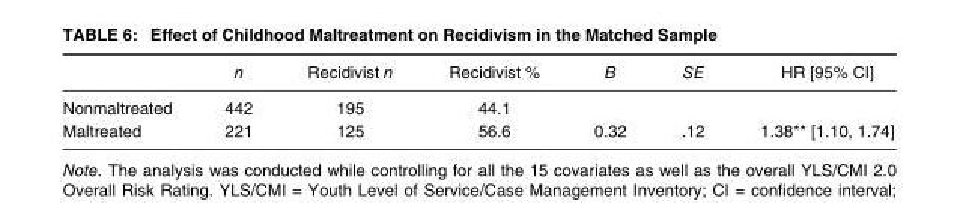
<table><thead><tr><td></td><td>n</td><td>Recidivist n</td><td>Recidivist %</td><td>B</td><td>SE</td><td>HR [95% CI]</td></tr></thead><tbody><tr><td>Nonmaltreated</td><td>442</td><td>195</td><td>44.1</td><td></td><td></td><td></td></tr><tr><td>Maltreated</td><td>221</td><td>125</td><td>56.6</td><td>0.32</td><td>.12</td><td>1.38** [1.10, 1.74]</td></tr></tbody></table>